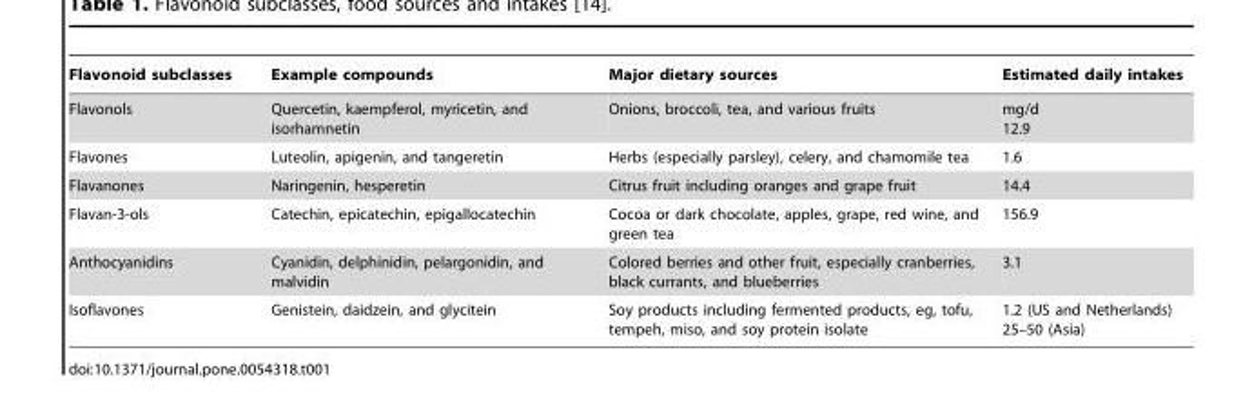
<table><thead><tr><td>Flavonoid subclasses</td><td>Example compounds</td><td>Major dietary sources</td><td>Estimated daily intakes</td></tr></thead><tbody><tr><td>Flavonols</td><td>Quercetin, kaempferol, myricetin, and isorhamnetin</td><td>Onions, broccoli, tea, and various fruits</td><td>mg/d 12.9</td></tr><tr><td>Flavones</td><td>Luteolin, apigenin, and tangeretin</td><td>Herbs (especially parsley), celery, and chamomile tea</td><td>1.6</td></tr><tr><td>Flavanones</td><td>Naringenin, hesperetin</td><td>Citrus fruit including oranges and grape fruit</td><td>14.4</td></tr><tr><td>Flavan-3-ols</td><td>Catechin, epicatechin, epigallocatechin</td><td>Cocoa or dark chocolate, apples, grape, red wine, and green tea</td><td>156.9</td></tr><tr><td>Anthocyanidins</td><td>Cyanidin, delphinidin, pelargonidin, and malvidin</td><td>Colored berries and other fruit, especially cranberries, black currants, and blueberries</td><td>3.1</td></tr><tr><td>Isoflavones</td><td>Genistein, daidzein, and glycitein</td><td>Soy products including fermented products, eg, tofu, tempeh, miso, and soy protein isolate</td><td>1.2 (US and Netherlands) 25–50 (Asia)</td></tr></tbody></table>